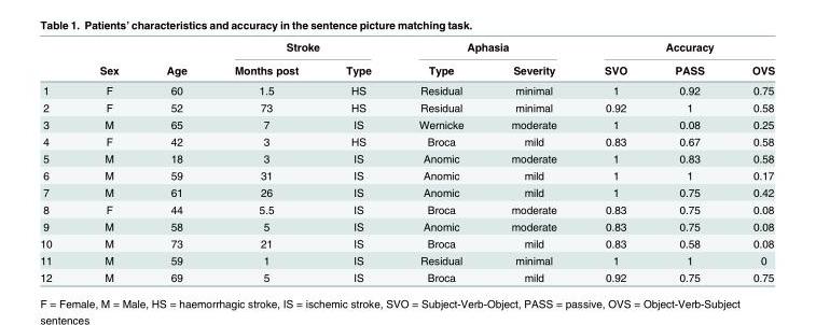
<table><thead><tr><td rowspan="2"></td><td rowspan="2">Sex</td><td rowspan="2">Age</td><td colspan="2">Stroke</td><td colspan="2">Aphasia</td><td colspan="3">Accuracy</td></tr><tr><td>Months post</td><td>Type</td><td>Type</td><td>Severity</td><td>SVO</td><td>PASS</td><td>OVS</td></tr></thead><tbody><tr><td>1</td><td>F</td><td>60</td><td>1.5</td><td>HS</td><td>Residual</td><td>minimal</td><td>1</td><td>0.92</td><td>0.75</td></tr><tr><td>2</td><td>F</td><td>52</td><td>73</td><td>HS</td><td>Residual</td><td>minimal</td><td>0.92</td><td>1</td><td>0.58</td></tr><tr><td>3</td><td>M</td><td>65</td><td>7</td><td>IS</td><td>Wernicke</td><td>moderate</td><td>1</td><td>0.08</td><td>0.25</td></tr><tr><td>4</td><td>F</td><td>42</td><td>3</td><td>HS</td><td>Broca</td><td>mild</td><td>0.83</td><td>0.67</td><td>0.58</td></tr><tr><td>5</td><td>M</td><td>18</td><td>3</td><td>IS</td><td>Anomic</td><td>moderate</td><td>1</td><td>0.83</td><td>0.58</td></tr><tr><td>6</td><td>M</td><td>59</td><td>31</td><td>IS</td><td>Anomic</td><td>mild</td><td>1</td><td>1</td><td>0.17</td></tr><tr><td>7</td><td>M</td><td>61</td><td>26</td><td>IS</td><td>Anomic</td><td>mild</td><td>1</td><td>0.75</td><td>0.42</td></tr><tr><td>8</td><td>F</td><td>44</td><td>5.5</td><td>IS</td><td>Broca</td><td>moderate</td><td>0.83</td><td>0.75</td><td>0.08</td></tr><tr><td>9</td><td>M</td><td>58</td><td>5</td><td>IS</td><td>Anomic</td><td>moderate</td><td>0.83</td><td>0.75</td><td>0.08</td></tr><tr><td>10</td><td>M</td><td>73</td><td>21</td><td>IS</td><td>Broca</td><td>mild</td><td>0.83</td><td>0.58</td><td>0.08</td></tr><tr><td>11</td><td>M</td><td>59</td><td>1</td><td>IS</td><td>Residual</td><td>minimal</td><td>1</td><td>1</td><td>0</td></tr><tr><td>12</td><td>M</td><td>69</td><td>5</td><td>IS</td><td>Broca</td><td>mild</td><td>0.92</td><td>0.75</td><td>0.75</td></tr></tbody></table>